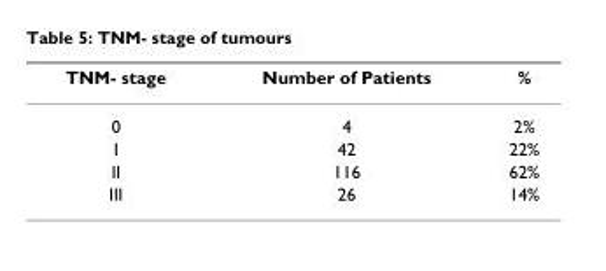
<table><thead><tr><td>TNM- stage</td><td>Number of Patients</td><td>%</td></tr></thead><tbody><tr><td>0</td><td>4</td><td>2%</td></tr><tr><td>I</td><td>42</td><td>22%</td></tr><tr><td>II</td><td>116</td><td>62%</td></tr><tr><td>III</td><td>26</td><td>14%</td></tr></tbody></table>